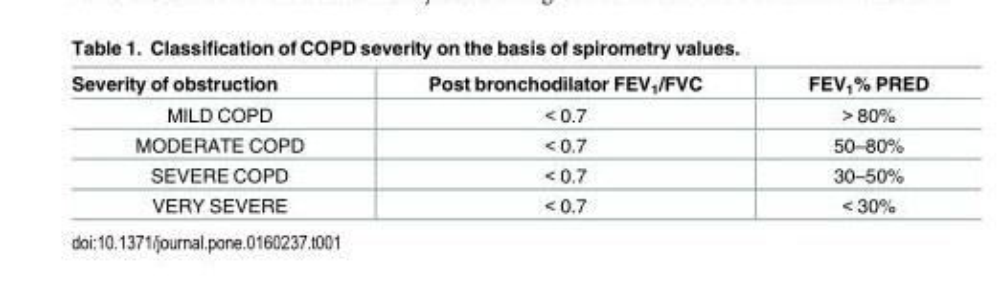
<table><thead><tr><td>Severity of obstruction</td><td>Post bronchodilator FEV<sub>1</sub>/FVC</td><td>FEV<sub>1</sub>% PRED</td></tr></thead><tbody><tr><td>MILD COPD</td><td>&lt; 0.7</td><td>&gt; 80%</td></tr><tr><td>MODERATE COPD</td><td>&lt; 0.7</td><td>50–80%</td></tr><tr><td>SEVERE COPD</td><td>&lt; 0.7</td><td>30–50%</td></tr><tr><td>VERY SEVERE</td><td>&lt; 0.7</td><td>&lt; 30%</td></tr></tbody></table>